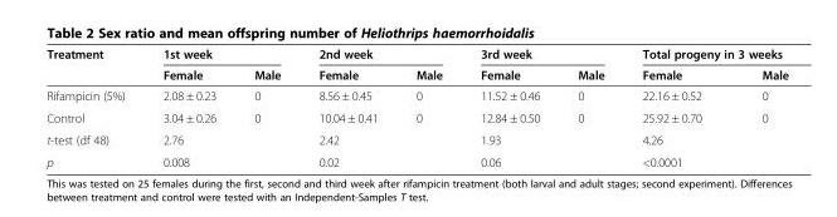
<table><thead><tr><td rowspan="2">Treatment</td><td colspan="2">1st week</td><td colspan="2">2nd week</td><td colspan="2">3rd week</td><td colspan="2">Total progeny in 3 weeks</td></tr><tr><td>Female</td><td>Male</td><td>Female</td><td>Male</td><td>Female</td><td>Male</td><td>Female</td><td>Male</td></tr></thead><tbody><tr><td>Rifampicin (5%)</td><td>2.08 ± 0.23</td><td>0</td><td>8.56 ± 0.45</td><td>0</td><td>11.52 ± 0.46</td><td>0</td><td>22.16 ± 0.52</td><td>0</td></tr><tr><td>Control</td><td>3.04 ± 0.26</td><td>0</td><td>10.04 ± 0.41</td><td>0</td><td>12.84 ± 0.50</td><td>0</td><td>25.92 ± 0.70</td><td>0</td></tr><tr><td>t-test (df 48)</td><td>2.76</td><td></td><td>2.42</td><td></td><td>1.93</td><td></td><td>4.26</td><td></td></tr><tr><td>p</td><td>0.008</td><td></td><td>0.02</td><td></td><td>0.06</td><td></td><td>&lt;0.0001</td><td></td></tr></tbody></table>